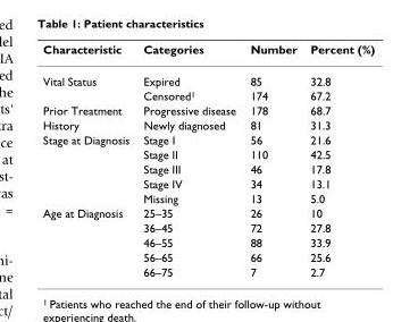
<table><thead><tr><td>Characteristic</td><td>Categories</td><td>Number</td><td>Percent (%)</td></tr></thead><tbody><tr><td rowspan="2">Vital Status</td><td>Expired</td><td>85</td><td>32.8</td></tr><tr><td>Censored<sup>1</sup></td><td>174</td><td>67.2</td></tr><tr><td>Prior Treatment</td><td>Progressive disease</td><td>178</td><td>68.7</td></tr><tr><td>History</td><td>Newly diagnosed</td><td>81</td><td>31.3</td></tr><tr><td rowspan="5">Stage at Diagnosis</td><td>Stage I</td><td>56</td><td>21.6</td></tr><tr><td>Stage II</td><td>110</td><td>42.5</td></tr><tr><td>Stage III</td><td>46</td><td>17.8</td></tr><tr><td>Stage IV</td><td>34</td><td>13.1</td></tr><tr><td>Missing</td><td>13</td><td>5.0</td></tr><tr><td rowspan="5">Age at Diagnosis</td><td>25–35</td><td>26</td><td>10</td></tr><tr><td>36–45</td><td>72</td><td>27.8</td></tr><tr><td>46–55</td><td>88</td><td>33.9</td></tr><tr><td>56–65</td><td>66</td><td>25.6</td></tr><tr><td>66–75</td><td>7</td><td>2.7</td></tr></tbody></table>